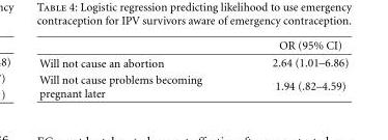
<table><thead><tr><td></td><td>OR (95% CI)</td></tr></thead><tbody><tr><td>Will not cause an abortion</td><td>2.64 (1.01–6.86)</td></tr><tr><td>Will not cause problems becoming pregnant later</td><td>1.94 (.82–4.59)</td></tr></tbody></table>